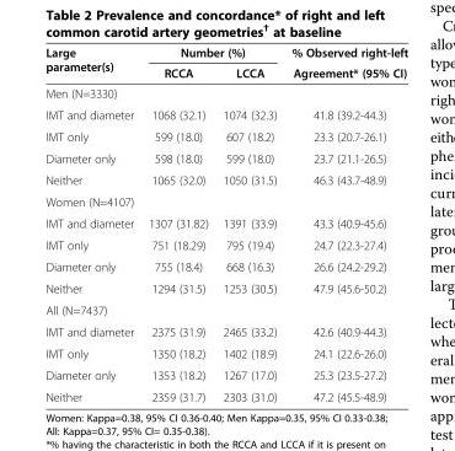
<table><thead><tr><td rowspan="2">Large parameter(s)</td><td colspan="2">Number (%)</td><td rowspan="2">% Observed right-left Agreement* (95% CI)</td></tr><tr><td>RCCA</td><td>LCCA</td></tr></thead><tbody><tr><td colspan="4">Men (N=3330)</td></tr><tr><td>IMT and diameter</td><td>1068 (32.1)</td><td>1074 (32.3)</td><td>41.8 (39.2-44.3)</td></tr><tr><td>IMT only</td><td>599 (18.0)</td><td>607 (18.2)</td><td>23.3 (20.7-26.1)</td></tr><tr><td>Diameter only</td><td>598 (18.0)</td><td>599 (18.0)</td><td>23.7 (21.1-26.5)</td></tr><tr><td>Neither</td><td>1065 (32.0)</td><td>1050 (31.5)</td><td>46.3 (43.7-48.9)</td></tr><tr><td colspan="4">Women (N=4107)</td></tr><tr><td>IMT and diameter</td><td>1307 (31.82)</td><td>1391 (33.9)</td><td>43.3 (40.9-45.6)</td></tr><tr><td>IMT only</td><td>751 (18.29)</td><td>795 (19.4)</td><td>24.7 (22.3-27.4)</td></tr><tr><td>Diameter only</td><td>755 (18.4)</td><td>668 (16.3)</td><td>26.6 (24.2-29.2)</td></tr><tr><td>Neither</td><td>1294 (31.5)</td><td>1253 (30.5)</td><td>47.9 (45.6-50.2)</td></tr><tr><td colspan="4">All (N=7437)</td></tr><tr><td>IMT and diameter</td><td>2375 (31.9)</td><td>2465 (33.2)</td><td>42.6 (40.9-44.3)</td></tr><tr><td>IMT only</td><td>1350 (18.2)</td><td>1402 (18.9)</td><td>24.1 (22.6-26.0)</td></tr><tr><td>Diameter only</td><td>1353 (18.2)</td><td>1267 (17.0)</td><td>25.3 (23.5-27.2)</td></tr><tr><td>Neither</td><td>2359 (31.7)</td><td>2303 (31.0)</td><td>47.2 (45.5-48.9)</td></tr></tbody></table>